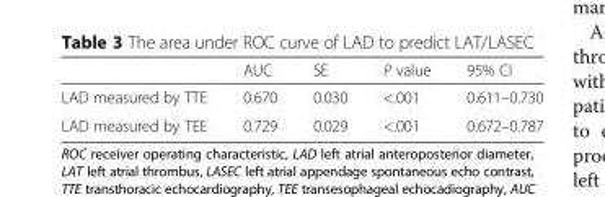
<table><thead><tr><td></td><td>AUC</td><td>SE</td><td>P value</td><td>95% CI</td></tr></thead><tbody><tr><td>LAD measured by TTE</td><td>0.670</td><td>0.030</td><td>&lt;.001</td><td>0.611–0.730</td></tr><tr><td>LAD measured by TEE</td><td>0.729</td><td>0.029</td><td>&lt;.001</td><td>0.672–0.787</td></tr></tbody></table>